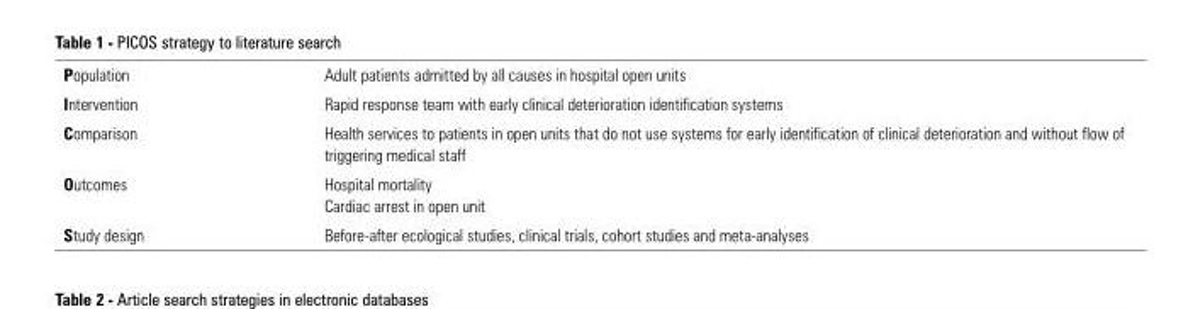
<table><tbody><tr><td>Population</td><td>Adult patients admitted by all causes in hospital open units</td></tr><tr><td>Intervention</td><td>Rapid response team with early clinical deterioration identification systems</td></tr><tr><td>Comparison</td><td>Health services to patients in open units that do not use systems for early identification of clinical deterioration and without flow of triggering medical staff</td></tr><tr><td>Outcomes</td><td>Hospital mortality Cardiac arrest in open unit</td></tr><tr><td>Study design</td><td>Before-after ecological studies, clinical trials, cohort studies and meta-analyses</td></tr></tbody></table>